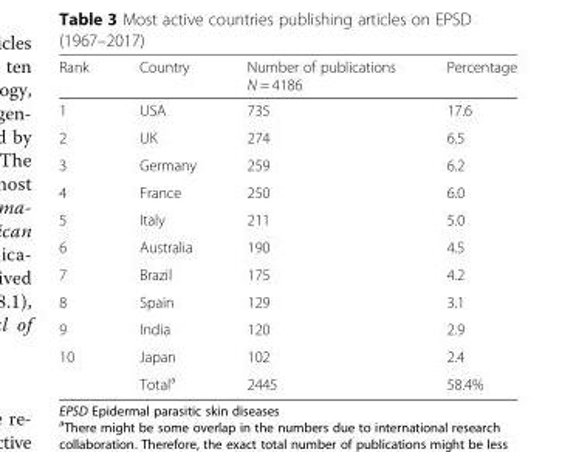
<table><thead><tr><td>Rank</td><td>Country</td><td>Number of publications N = 4186</td><td>Percentage</td></tr></thead><tbody><tr><td>1</td><td>USA</td><td>735</td><td>17.6</td></tr><tr><td>2</td><td>UK</td><td>274</td><td>6.5</td></tr><tr><td>3</td><td>Germany</td><td>259</td><td>6.2</td></tr><tr><td>4</td><td>France</td><td>250</td><td>6.0</td></tr><tr><td>5</td><td>Italy</td><td>211</td><td>5.0</td></tr><tr><td>6</td><td>Australia</td><td>190</td><td>4.5</td></tr><tr><td>7</td><td>Brazil</td><td>175</td><td>4.2</td></tr><tr><td>8</td><td>Spain</td><td>129</td><td>3.1</td></tr><tr><td>9</td><td>India</td><td>120</td><td>2.9</td></tr><tr><td rowspan="2">10</td><td>Japan</td><td>102</td><td>2.4</td></tr><tr><td>Total<sup>a</sup></td><td>2445</td><td>58.4%</td></tr></tbody></table>